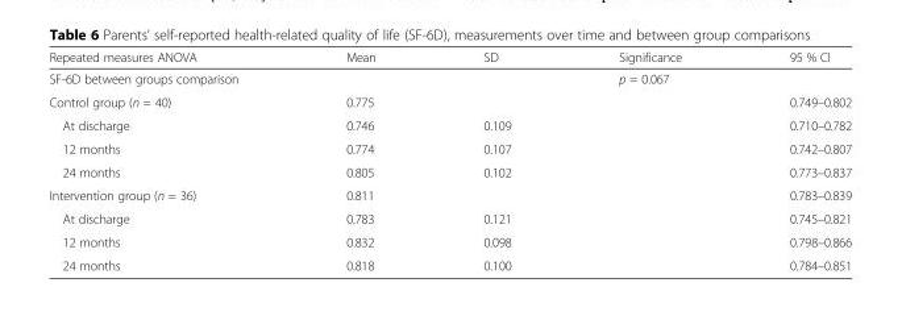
<table><thead><tr><td>Repeated measures ANOVA</td><td>Mean</td><td>SD</td><td>Significance</td><td>95 % Cl</td></tr></thead><tbody><tr><td>SF-6D between groups comparison</td><td></td><td></td><td>p = 0.067</td><td></td></tr><tr><td>Control group (n = 40)</td><td>0.775</td><td></td><td></td><td>0.749–0.802</td></tr><tr><td>At discharge</td><td>0.746</td><td>0.109</td><td></td><td>0.710–0.782</td></tr><tr><td>12 months</td><td>0.774</td><td>0.107</td><td></td><td>0.742–0.807</td></tr><tr><td>24 months</td><td>0.805</td><td>0.102</td><td></td><td>0.773–0.837</td></tr><tr><td>Intervention group (n = 36)</td><td>0.811</td><td></td><td></td><td>0.783–0.839</td></tr><tr><td>At discharge</td><td>0.783</td><td>0.121</td><td></td><td>0.745–0.821</td></tr><tr><td>12 months</td><td>0.832</td><td>0.098</td><td></td><td>0.798–0.866</td></tr><tr><td>24 months</td><td>0.818</td><td>0.100</td><td></td><td>0.784–0.851</td></tr></tbody></table>